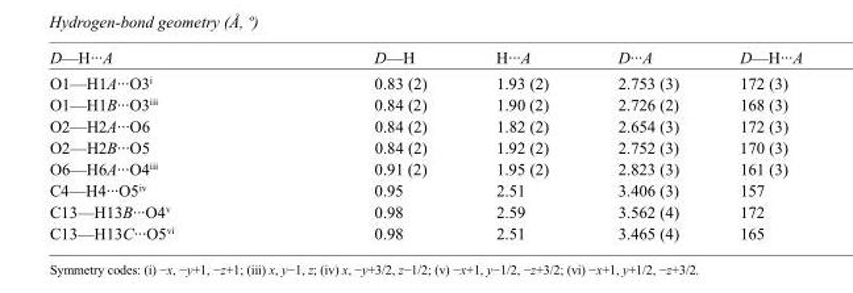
<table><tbody><tr><td>D—H···A</td><td>D—H</td><td>H···A</td><td>D···A</td><td>D—H···A</td></tr><tr><td>O1—H1A···O3<sup>i</sup></td><td>0.83 (2)</td><td>1.93 (2)</td><td>2.753 (3)</td><td>172 (3)</td></tr><tr><td>O1—H1B···O3<sup>iii</sup></td><td>0.84 (2)</td><td>1.90 (2)</td><td>2.726 (2)</td><td>168 (3)</td></tr><tr><td>O2—H2A···O6</td><td>0.84 (2)</td><td>1.82 (2)</td><td>2.654 (3)</td><td>172 (3)</td></tr><tr><td>O2—H2B···O5</td><td>0.84 (2)</td><td>1.92 (2)</td><td>2.752 (3)</td><td>170 (3)</td></tr><tr><td>O6—H6A···O4<sup>iii</sup></td><td>0.91 (2)</td><td>1.95 (2)</td><td>2.823 (3)</td><td>161 (3)</td></tr><tr><td>C4—H4···O5<sup>iv</sup></td><td>0.95</td><td>2.51</td><td>3.406 (3)</td><td>157</td></tr><tr><td>C13—H13B···O4<sup>v</sup></td><td>0.98</td><td>2.59</td><td>3.562 (4)</td><td>172</td></tr><tr><td>C13—H13C···O5<sup>vi</sup></td><td>0.98</td><td>2.51</td><td>3.465 (4)</td><td>165</td></tr></tbody></table>